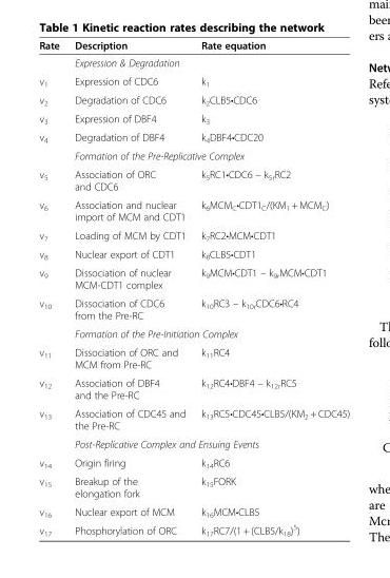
<table><thead><tr><td>Rate</td><td>Description</td><td>Rate equation</td></tr></thead><tbody><tr><td></td><td>Expression &amp; Degradation</td><td></td></tr><tr><td>v<sub>1</sub></td><td>Expression of CDC6</td><td>k<sub>1</sub></td></tr><tr><td>v<sub>2</sub></td><td>Degradation of CDC6</td><td>k2CLB5•CDC6</td></tr><tr><td>v<sub>3</sub></td><td>Expression of DBF4</td><td>k<sub>3</sub></td></tr><tr><td rowspan="2">v<sub>4</sub></td><td>Degradation of DBF4</td><td>k4DBF4•CDC20</td></tr><tr><td colspan="2">Formation of the Pre-Replicative Complex</td></tr><tr><td>v<sub>5</sub></td><td>Association of ORC and CDC6</td><td>k5RC1•CDC6 – k5rRC2</td></tr><tr><td>v<sub>6</sub></td><td>Association and nuclear import of MCM and CDT1</td><td>k6MCMC•CDT1C/(KM1 + MCMC)</td></tr><tr><td>v<sub>7</sub></td><td>Loading of MCM by CDT1</td><td>k7RC2•MCM•CDT1</td></tr><tr><td>v<sub>8</sub></td><td>Nuclear export of CDT1</td><td>k8CLB5•CDT1</td></tr><tr><td>v<sub>9</sub></td><td>Dissociation of nuclear MCM-CDT1 complex</td><td>k9MCM•CDT1 – k9rMCM•CDT1</td></tr><tr><td rowspan="2">v<sub>10</sub></td><td>Dissociation of CDC6 from the Pre-RC</td><td>k10RC3 – k10rCDC6•RC4</td></tr><tr><td colspan="2">Formation of the Pre-Initiation Complex</td></tr><tr><td>v<sub>11</sub></td><td>Dissociation of ORC and MCM from Pre-RC</td><td>k<sub>11</sub>RC4</td></tr><tr><td>v<sub>12</sub></td><td>Association of DBF4 and the Pre-RC</td><td>k12RC4•DBF4 – k12rRC5</td></tr><tr><td rowspan="2">v<sub>13</sub></td><td>Association of CDC45 and the Pre-RC</td><td>k13RC5•CDC45•CLB5/(KM2 + CDC45)</td></tr><tr><td colspan="2">Post-Replicative Complex and Ensuing Events</td></tr><tr><td>v<sub>14</sub></td><td>Origin firing</td><td>k<sub>14</sub>RC6</td></tr><tr><td>v<sub>15</sub></td><td>Breakup of the elongation fork</td><td>k<sub>15</sub>FORK</td></tr><tr><td>v<sub>16</sub></td><td>Nuclear export of MCM</td><td>k16MCM•CLB5</td></tr><tr><td>v<sub>17</sub></td><td>Phosphorylation of ORC</td><td>k<sub>17</sub>RC7/(1 + (CLB5/k<sub>18</sub>)<sup>5</sup>)</td></tr></tbody></table>